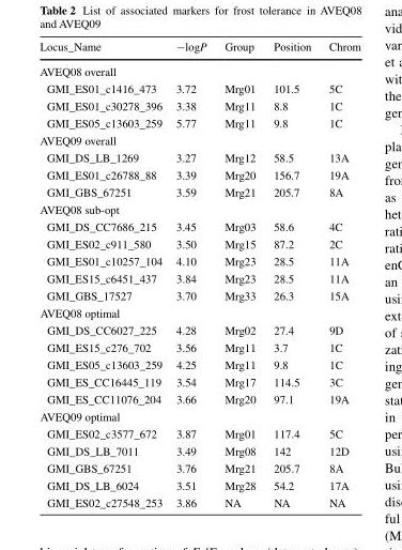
<table><thead><tr><td>Locus_Name</td><td>−logP</td><td>Group</td><td>Position</td><td>Chrom</td></tr></thead><tbody><tr><td colspan="5">AVEQ08 overall</td></tr><tr><td>GMI_ES01_c1416_473</td><td>3.72</td><td>Mrg01</td><td>101.5</td><td>5C</td></tr><tr><td>GMI_ES01_c30278_396</td><td>3.38</td><td>Mrg11</td><td>8.8</td><td>1C</td></tr><tr><td>GMI_ES05_c13603_259</td><td>5.77</td><td>Mrg11</td><td>9.8</td><td>1C</td></tr><tr><td colspan="5">AVEQ09 overall</td></tr><tr><td>GMI_DS_LB_1269</td><td>3.27</td><td>Mrg12</td><td>58.5</td><td>13A</td></tr><tr><td>GMI_ES01_c26788_88</td><td>3.39</td><td>Mrg20</td><td>156.7</td><td>19A</td></tr><tr><td>GMI_GBS_67251</td><td>3.59</td><td>Mrg21</td><td>205.7</td><td>8A</td></tr><tr><td colspan="5">AVEQ08 sub-opt</td></tr><tr><td>GMI_DS_CC7686_215</td><td>3.45</td><td>Mrg03</td><td>58.6</td><td>4C</td></tr><tr><td>GMI_ES02_c911_580</td><td>3.50</td><td>Mrg15</td><td>87.2</td><td>2C</td></tr><tr><td>GMI_ES01_c10257_104</td><td>4.10</td><td>Mrg23</td><td>28.5</td><td>11A</td></tr><tr><td>GMI_ES15_c6451_437</td><td>3.84</td><td>Mrg23</td><td>28.5</td><td>11A</td></tr><tr><td>GMI_GBS_17527</td><td>3.70</td><td>Mrg33</td><td>26.3</td><td>15A</td></tr><tr><td colspan="5">AVEQ08 optimal</td></tr><tr><td>GMI_DS_CC6027_225</td><td>4.28</td><td>Mrg02</td><td>27.4</td><td>9D</td></tr><tr><td>GMI_ES15_c276_702</td><td>3.56</td><td>Mrg11</td><td>3.7</td><td>1C</td></tr><tr><td>GMI_ES05_c13603_259</td><td>4.25</td><td>Mrg11</td><td>9.8</td><td>1C</td></tr><tr><td>GMI_ES_CC16445_119</td><td>3.54</td><td>Mrg17</td><td>114.5</td><td>3C</td></tr><tr><td>GMI_ES_CC11076_204</td><td>3.66</td><td>Mrg20</td><td>97.1</td><td>19A</td></tr><tr><td colspan="5">AVEQ09 optimal</td></tr><tr><td>GMI_ES02_c3577_672</td><td>3.87</td><td>Mrg01</td><td>117.4</td><td>5C</td></tr><tr><td>GMI_DS_LB_7011</td><td>3.49</td><td>Mrg08</td><td>142</td><td>12D</td></tr><tr><td>GMI_GBS_67251</td><td>3.76</td><td>Mrg21</td><td>205.7</td><td>8A</td></tr><tr><td>GMI_DS_LB_6024</td><td>3.51</td><td>Mrg28</td><td>54.2</td><td>17A</td></tr><tr><td>GMI_ES02_c27548_253</td><td>3.86</td><td>NA</td><td>NA</td><td>NA</td></tr></tbody></table>